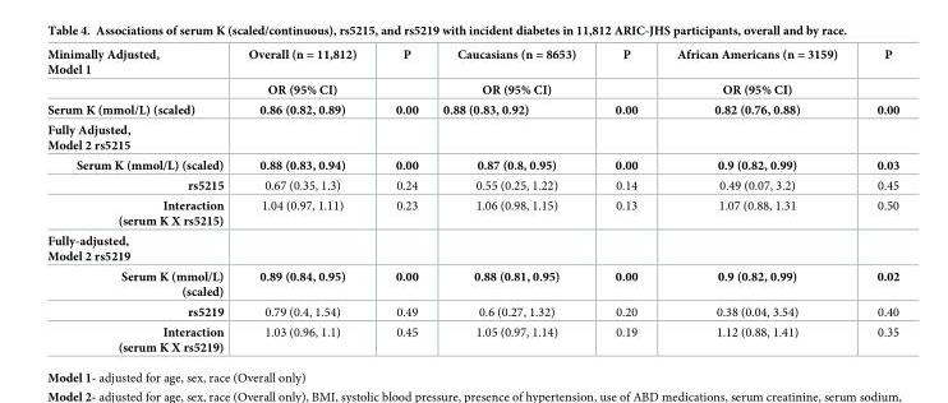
<table><thead><tr><td rowspan="2">Minimally Adjusted, Model 1</td><td rowspan="2">Overall (n = 11,812) OR (95% CI)</td><td rowspan="2">P</td><td rowspan="2">Caucasians (n = 8653) OR (95% CI)</td><td rowspan="2">P</td><td rowspan="2">African Americans (n = 3159) OR (95% CI)</td><td rowspan="2">P</td></tr><tr></tr></thead><tbody><tr><td>Serum K (mmol/L) (scaled)</td><td>0.86 (0.82, 0.89)</td><td>0.00</td><td>0.88 (0.83, 0.92)</td><td>0.00</td><td>0.82 (0.76, 0.88)</td><td>0.00</td></tr><tr><td colspan="7">Fully Adjusted, Model 2 rs5215</td></tr><tr><td>Serum K (mmol/L) (scaled)</td><td>0.88 (0.83, 0.94)</td><td>0.00</td><td>0.87 (0.8, 0.95)</td><td>0.00</td><td>0.9 (0.82, 0.99)</td><td>0.03</td></tr><tr><td>rs5215</td><td>0.67 (0.35, 1.3)</td><td>0.24</td><td>0.55 (0.25, 1.22)</td><td>0.14</td><td>0.49 (0.07, 3.2)</td><td>0.45</td></tr><tr><td>Interaction (serum K X rs5215)</td><td>1.04 (0.97, 1.11)</td><td>0.23</td><td>1.06 (0.98, 1.15)</td><td>0.13</td><td>1.07 (0.88, 1.31</td><td>0.50</td></tr><tr><td colspan="7">Fully-adjusted, Model 2 rs5219</td></tr><tr><td>Serum K (mmol/L) (scaled)</td><td>0.89 (0.84, 0.95)</td><td>0.00</td><td>0.88 (0.81, 0.95)</td><td>0.00</td><td>0.9 (0.82, 0.99)</td><td>0.02</td></tr><tr><td>rs5219</td><td>0.79 (0.4, 1.54)</td><td>0.49</td><td>0.6 (0.27, 1.32)</td><td>0.20</td><td>0.38 (0.04, 3.54)</td><td>0.40</td></tr><tr><td>Interaction (serum K X rs5219)</td><td>1.03 (0.96, 1.1)</td><td>0.45</td><td>1.05 (0.97, 1.14)</td><td>0.19</td><td>1.12 (0.88, 1.41)</td><td>0.35</td></tr></tbody></table>